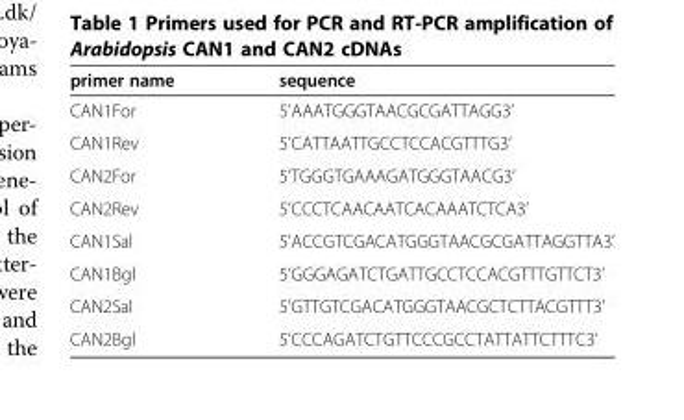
<table><thead><tr><td>primer name</td><td>sequence</td></tr></thead><tbody><tr><td>CAN1For</td><td>5’AAATGGGTAACGCGATTAGG3’</td></tr><tr><td>CAN1Rev</td><td>5’CATTAATTGCCTCCACGTTTG3’</td></tr><tr><td>CAN2For</td><td>5’TGGGTGAAAGATGGGTAACG3’</td></tr><tr><td>CAN2Rev</td><td>5’CCCTCAACAATCACAAATCTCA3’</td></tr><tr><td>CAN1Sal</td><td>5’ACCGTCGACATGGGTAACGCGATTAGGTTA3’</td></tr><tr><td>CAN1Bgl</td><td>5’GGGAGATCTGATTGCCTCCACGTTTGTTCT3’</td></tr><tr><td>CAN2Sal</td><td>5’GTTGTCGACATGGGTAACGCTCTTACGTTT3’</td></tr><tr><td>CAN2Bgl</td><td>5’CCCAGATCTGTTCCCGCCTATTATTCTTTC3’</td></tr></tbody></table>